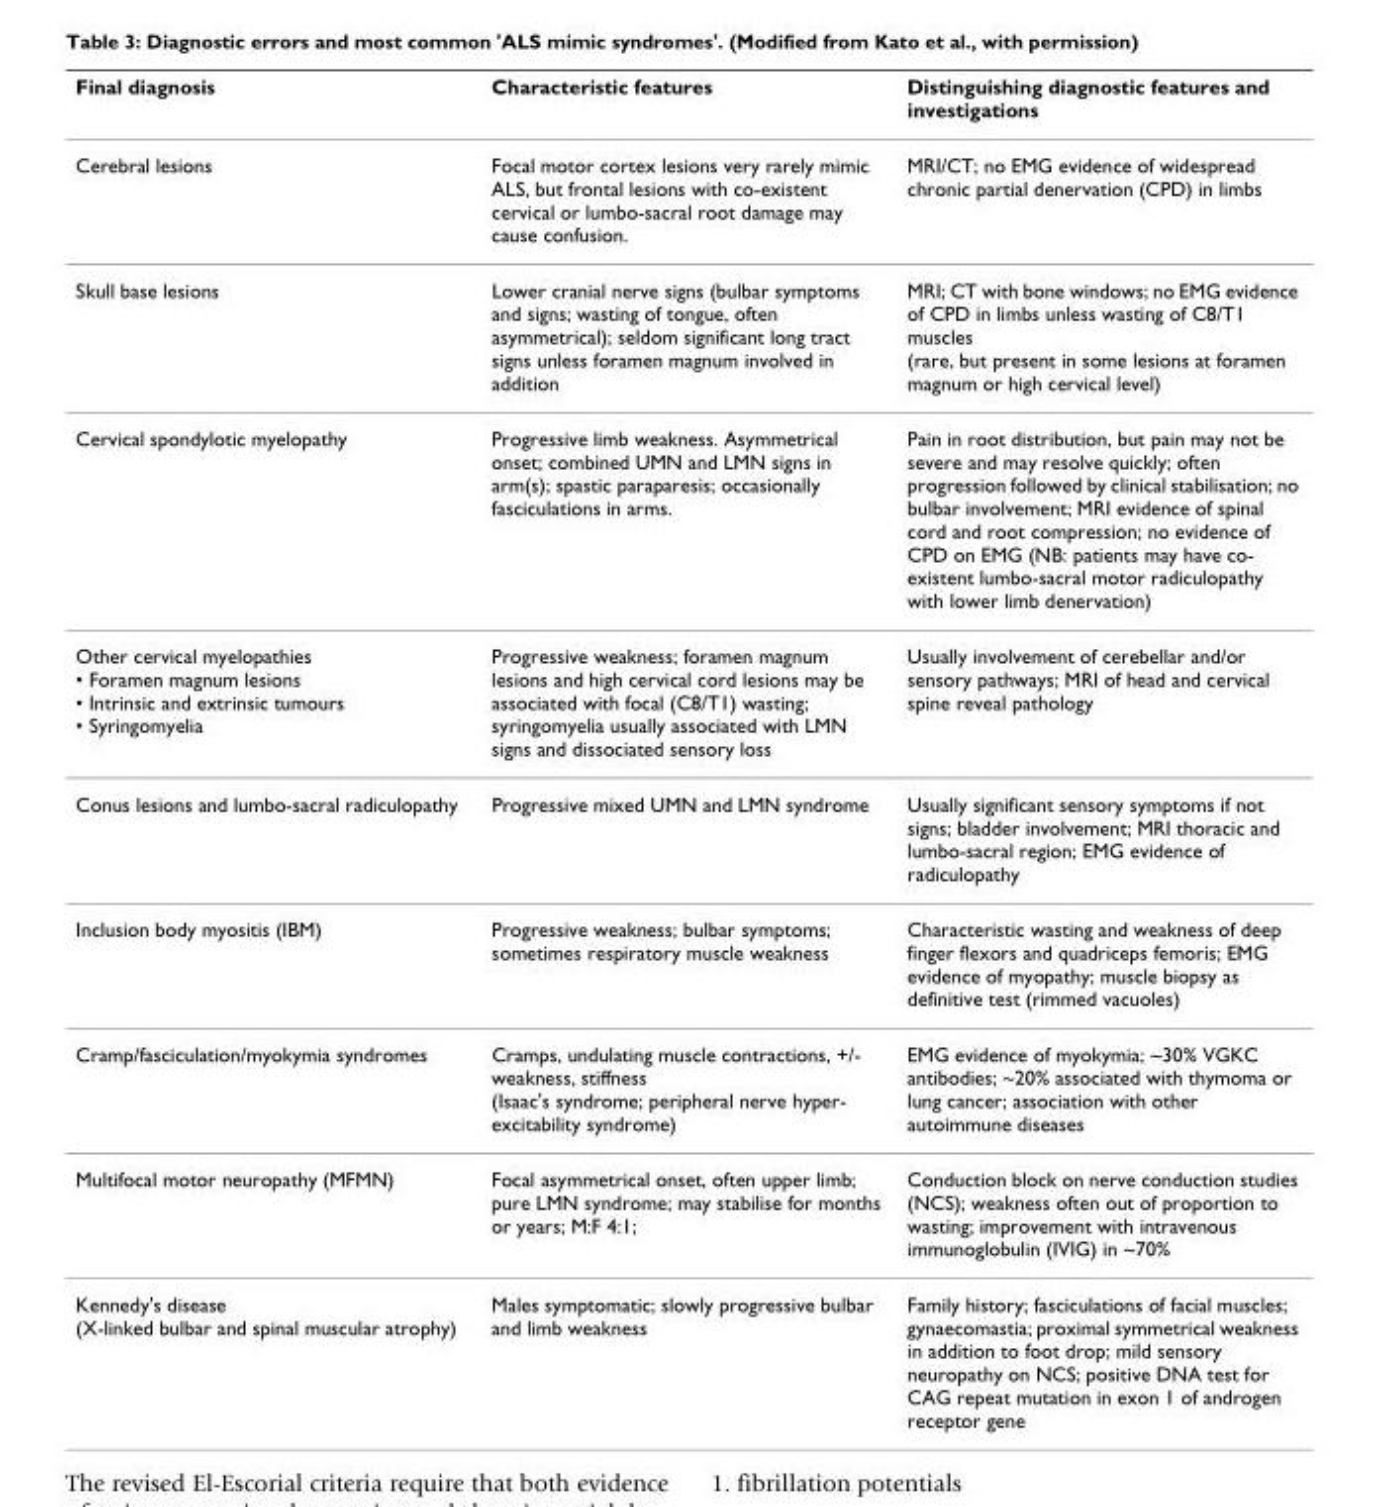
<table><thead><tr><td>Final diagnosis</td><td>Characteristic features</td><td>Distinguishing diagnostic features and investigations</td></tr></thead><tbody><tr><td>Cerebral lesions</td><td>Focal motor cortex lesions very rarely mimic ALS, but frontal lesions with co-existent cervical or lumbo-sacral root damage may cause confusion.</td><td>MRI/CT; no EMG evidence of widespread chronic partial denervation (CPD) in limbs</td></tr><tr><td>Skull base lesions</td><td>Lower cranial nerve signs (bulbar symptoms and signs; wasting of tongue, often asymmetrical); seldom significant long tract signs unless foramen magnum involved in addition</td><td>MRI; CT with bone windows; no EMG evidence of CPD in limbs unless wasting of C8/T1 muscles (rare, but present in some lesions at foramen magnum or high cervical level)</td></tr><tr><td>Cervical spondylotic myelopathy</td><td>Progressive limb weakness. Asymmetrical onset; combined UMN and LMN signs in arm(s); spastic paraparesis; occasionally fasciculations in arms.</td><td>Pain in root distribution, but pain may not be severe and may resolve quickly; often progression followed by clinical stabilisation; no bulbar involvement; MRI evidence of spinal cord and root compression; no evidence of CPD on EMG (NB: patients may have co- existent lumbo-sacral motor radiculopathy with lower limb denervation)</td></tr><tr><td>Other cervical myelopathies • Foramen magnum lesions • Intrinsic and extrinsic tumours • Syringomyelia</td><td>Progressive weakness; foramen magnum lesions and high cervical cord lesions may be associated with focal (C8/T1) wasting; syringomyelia usually associated with LMN signs and dissociated sensory loss</td><td>Usually involvement of cerebellar and/or sensory pathways; MRI of head and cervical spine reveal pathology</td></tr><tr><td>Conus lesions and lumbo-sacral radiculopathy</td><td>Progressive mixed UMN and LMN syndrome</td><td>Usually significant sensory symptoms if not signs; bladder involvement; MRI thoracic and lumbo-sacral region; EMG evidence of radiculopathy</td></tr><tr><td>Inclusion body myositis (IBM)</td><td>Progressive weakness; bulbar symptoms; sometimes respiratory muscle weakness</td><td>Characteristic wasting and weakness of deep finger flexors and quadriceps femoris; EMG evidence of myopathy; muscle biopsy as definitive test (rimmed vacuoles)</td></tr><tr><td>Cramp/fasciculation/myokymia syndromes</td><td>Cramps, undulating muscle contractions, +/- weakness, stiffness (Isaac&#x27;s syndrome; peripheral nerve hyper- excitability syndrome)</td><td>EMG evidence of myokymia; ~30% VGKC antibodies; ~20% associated with thymoma or lung cancer; association with other autoimmune diseases</td></tr><tr><td>Multifocal motor neuropathy (MFMN)</td><td>Focal asymmetrical onset, often upper limb; pure LMN syndrome; may stabilise for months or years; M:F 4:1;</td><td>Conduction block on nerve conduction studies (NCS); weakness often out of proportion to wasting; improvement with intravenous immunoglobulin (IVIG) in ~70%</td></tr><tr><td>Kennedy&#x27;s disease (X-linked bulbar and spinal muscular atrophy)</td><td>Males symptomatic; slowly progressive bulbar and limb weakness</td><td>Family history; fasciculations of facial muscles; gynaecomastia; proximal symmetrical weakness in addition to foot drop; mild sensory neuropathy on NCS; positive DNA test for CAG repeat mutation in exon 1 of androgen receptor gene</td></tr></tbody></table>